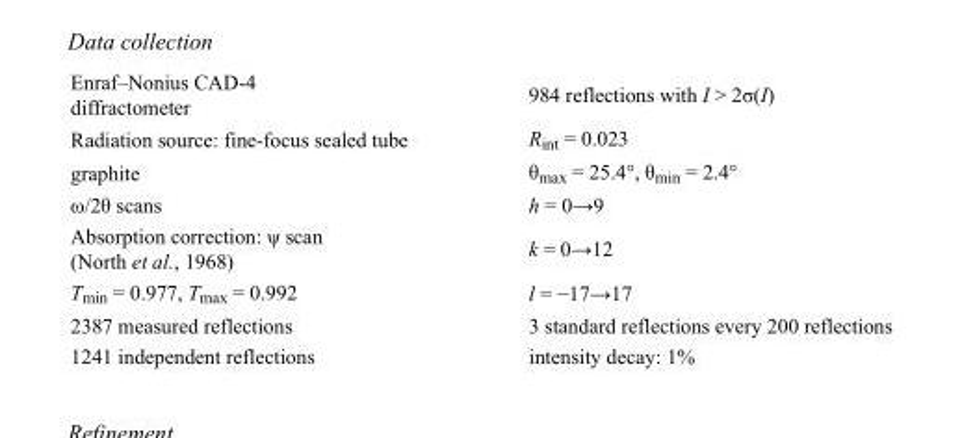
<table><tbody><tr><td>Enraf–Nonius CAD-4 diffractometer</td><td>984 reflections with I &gt; 2σ(I)</td></tr><tr><td>Radiation source: fine-focus sealed tube</td><td>R<sub>int</sub> = 0.023</td></tr><tr><td>graphite</td><td>θ<sub>max</sub> = 25.4°, θ<sub>min</sub> = 2.4°</td></tr><tr><td>ω/2θ scans</td><td>h = 0→9</td></tr><tr><td>Absorption correction: ψ scan (North et al., 1968)</td><td>k = 0→12</td></tr><tr><td>T<sub>min</sub> = 0.977, T<sub>max</sub> = 0.992</td><td>l = −17→17</td></tr><tr><td>2387 measured reflections</td><td>3 standard reflections every 200 reflections</td></tr><tr><td>1241 independent reflections</td><td>intensity decay: 1%</td></tr></tbody></table>